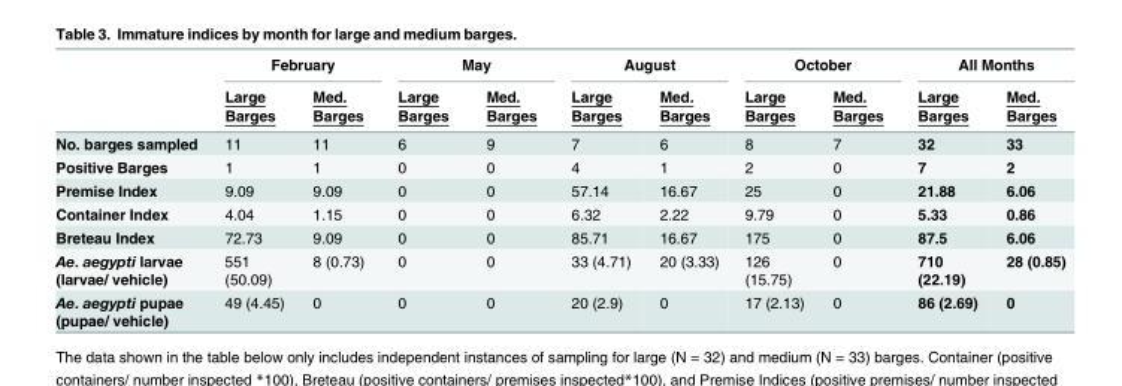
<table><thead><tr><td rowspan="2"></td><td colspan="2">February</td><td colspan="2">May</td><td colspan="2">August</td><td colspan="2">October</td><td colspan="2">All Months</td></tr><tr><td>Large Barges</td><td>Med. Barges</td><td>Large Barges</td><td>Med. Barges</td><td>Large Barges</td><td>Med. Barges</td><td>Large Barges</td><td>Med. Barges</td><td>Large Barges</td><td>Med. Barges</td></tr></thead><tbody><tr><td>No. barges sampled</td><td>11</td><td>11</td><td>6</td><td>9</td><td>7</td><td>6</td><td>8</td><td>7</td><td>32</td><td>33</td></tr><tr><td>Positive Barges</td><td>1</td><td>1</td><td>0</td><td>0</td><td>4</td><td>1</td><td>2</td><td>0</td><td>7</td><td>2</td></tr><tr><td>Premise Index</td><td>9.09</td><td>9.09</td><td>0</td><td>0</td><td>57.14</td><td>16.67</td><td>25</td><td>0</td><td>21.88</td><td>6.06</td></tr><tr><td>Container Index</td><td>4.04</td><td>1.15</td><td>0</td><td>0</td><td>6.32</td><td>2.22</td><td>9.79</td><td>0</td><td>5.33</td><td>0.86</td></tr><tr><td>Breteau Index</td><td>72.73</td><td>9.09</td><td>0</td><td>0</td><td>85.71</td><td>16.67</td><td>175</td><td>0</td><td>87.5</td><td>6.06</td></tr><tr><td>Ae. aegypti larvae (larvae/ vehicle)</td><td>551 (50.09)</td><td>8 (0.73)</td><td>0</td><td>0</td><td>33 (4.71)</td><td>20 (3.33)</td><td>126 (15.75)</td><td>0</td><td>710 (22.19)</td><td>28 (0.85)</td></tr><tr><td>Ae. aegypti pupae (pupae/ vehicle)</td><td>49 (4.45)</td><td>0</td><td>0</td><td>0</td><td>20 (2.9)</td><td>0</td><td>17 (2.13)</td><td>0</td><td>86 (2.69)</td><td>0</td></tr></tbody></table>